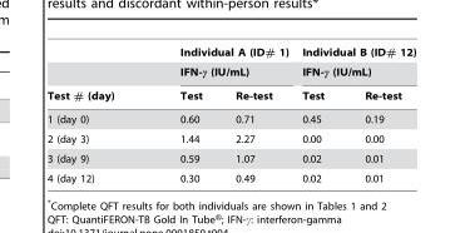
<table><thead><tr><td rowspan="3">Test # (day)</td><td rowspan="2" colspan="2">Individual A (ID# 1) IFN-γ (IU/mL)</td><td rowspan="2" colspan="2">Individual B (ID# 12) IFN-γ (IU/mL)</td></tr><tr></tr><tr><td>Test</td><td>Re-test</td><td>Test</td><td>Re-test</td></tr></thead><tbody><tr><td>1 (day 0)</td><td>0.60</td><td>0.71</td><td>0.45</td><td>0.19</td></tr><tr><td>2 (day 3)</td><td>1.44</td><td>2.27</td><td>0.00</td><td>0.00</td></tr><tr><td>3 (day 9)</td><td>0.59</td><td>1.07</td><td>0.02</td><td>0.01</td></tr><tr><td>4 (day 12)</td><td>0.30</td><td>0.49</td><td>0.02</td><td>0.01</td></tr></tbody></table>